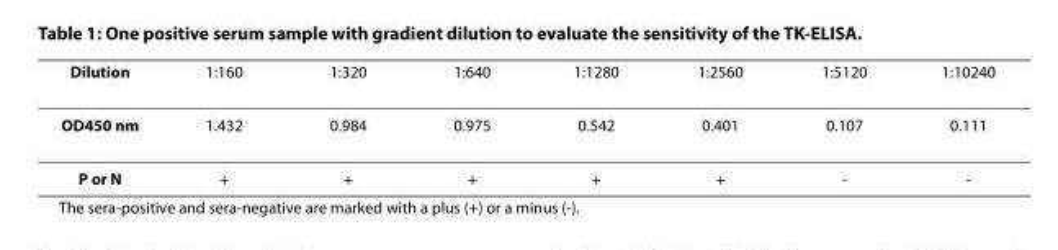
<table><thead><tr><td>Dilution</td><td>1:160</td><td>1:320</td><td>1:640</td><td>1:1280</td><td>1:2560</td><td>1:5120</td><td>1:10240</td></tr></thead><tbody><tr><td>OD450 nm</td><td>1.432</td><td>0.984</td><td>0.975</td><td>0.542</td><td>0.401</td><td>0.107</td><td>0.111</td></tr><tr><td>P or N</td><td>+</td><td>+</td><td>+</td><td>+</td><td>+</td><td>-</td><td>-</td></tr></tbody></table>